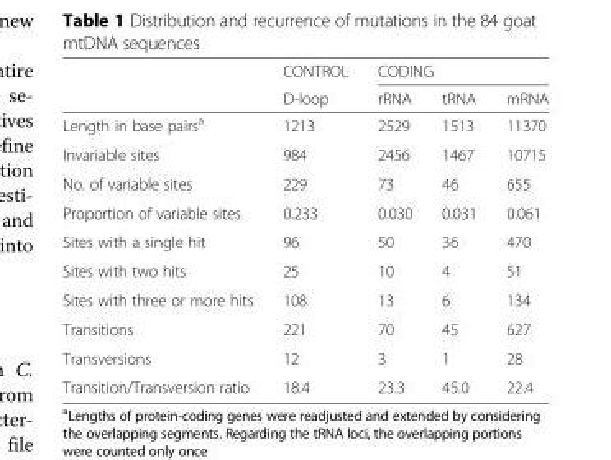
<table><thead><tr><td rowspan="2"></td><td rowspan="2">CONTROL D-loop</td><td colspan="3">CODING</td></tr><tr><td>rRNA</td><td>tRNA</td><td>mRNA</td></tr></thead><tbody><tr><td>Length in base pairs<sup>a</sup></td><td>1213</td><td>2529</td><td>1513</td><td>11370</td></tr><tr><td>Invariable sites</td><td>984</td><td>2456</td><td>1467</td><td>10715</td></tr><tr><td>No. of variable sites</td><td>229</td><td>73</td><td>46</td><td>655</td></tr><tr><td>Proportion of variable sites</td><td>0.233</td><td>0.030</td><td>0.031</td><td>0.061</td></tr><tr><td>Sites with a single hit</td><td>96</td><td>50</td><td>36</td><td>470</td></tr><tr><td>Sites with two hits</td><td>25</td><td>10</td><td>4</td><td>51</td></tr><tr><td>Sites with three or more hits</td><td>108</td><td>13</td><td>6</td><td>134</td></tr><tr><td>Transitions</td><td>221</td><td>70</td><td>45</td><td>627</td></tr><tr><td>Transversions</td><td>12</td><td>3</td><td>1</td><td>28</td></tr><tr><td>Transition/Transversion ratio</td><td>18.4</td><td>23.3</td><td>45.0</td><td>22.4</td></tr></tbody></table>